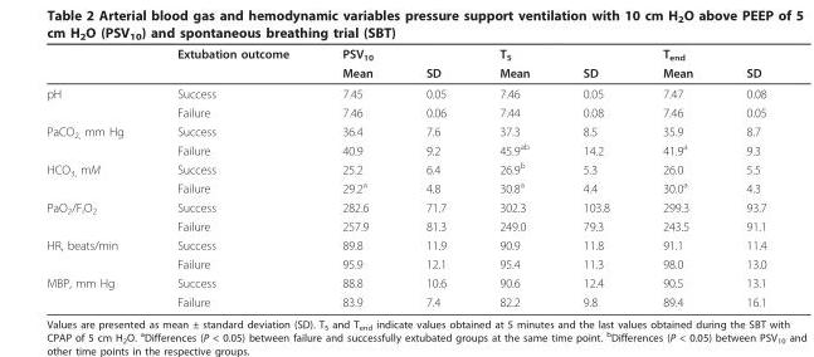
<table><thead><tr><td rowspan="2"></td><td rowspan="2">Extubation outcome</td><td colspan="2">PSV<sub>10</sub></td><td colspan="2">T<sub>5</sub></td><td colspan="2">T<sub>end</sub></td></tr><tr><td>Mean</td><td>SD</td><td>Mean</td><td>SD</td><td>Mean</td><td>SD</td></tr></thead><tbody><tr><td rowspan="2">pH</td><td>Success</td><td>7.45</td><td>0.05</td><td>7.46</td><td>0.05</td><td>7.47</td><td>0.08</td></tr><tr><td>Failure</td><td>7.46</td><td>0.06</td><td>7.44</td><td>0.08</td><td>7.46</td><td>0.05</td></tr><tr><td rowspan="2">PaCO<sub>2,</sub> mm Hg</td><td>Success</td><td>36.4</td><td>7.6</td><td>37.3</td><td>8.5</td><td>35.9</td><td>8.7</td></tr><tr><td>Failure</td><td>40.9</td><td>9.2</td><td>45.9<sup>ab</sup></td><td>14.2</td><td>41.9<sup>a</sup></td><td>9.3</td></tr><tr><td rowspan="2">HCO<sub>3,</sub> mM</td><td>Success</td><td>25.2</td><td>6.4</td><td>26.9<sup>b</sup></td><td>5.3</td><td>26.0</td><td>5.5</td></tr><tr><td>Failure</td><td>29.2<sup>a</sup></td><td>4.8</td><td>30.8<sup>a</sup></td><td>4.4</td><td>30.0<sup>a</sup></td><td>4.3</td></tr><tr><td rowspan="2">PaO<sub>2</sub>/F<sub>i</sub>O<sub>2</sub></td><td>Success</td><td>282.6</td><td>71.7</td><td>302.3</td><td>103.8</td><td>299.3</td><td>93.7</td></tr><tr><td>Failure</td><td>257.9</td><td>81.3</td><td>249.0</td><td>79.3</td><td>243.5</td><td>91.1</td></tr><tr><td rowspan="2">HR, beats/min</td><td>Success</td><td>89.8</td><td>11.9</td><td>90.9</td><td>11.8</td><td>91.1</td><td>11.4</td></tr><tr><td>Failure</td><td>95.9</td><td>12.1</td><td>95.4</td><td>11.3</td><td>98.0</td><td>13.0</td></tr><tr><td rowspan="2">MBP, mm Hg</td><td>Success</td><td>88.8</td><td>10.6</td><td>90.6</td><td>12.4</td><td>90.5</td><td>13.1</td></tr><tr><td>Failure</td><td>83.9</td><td>7.4</td><td>82.2</td><td>9.8</td><td>89.4</td><td>16.1</td></tr></tbody></table>